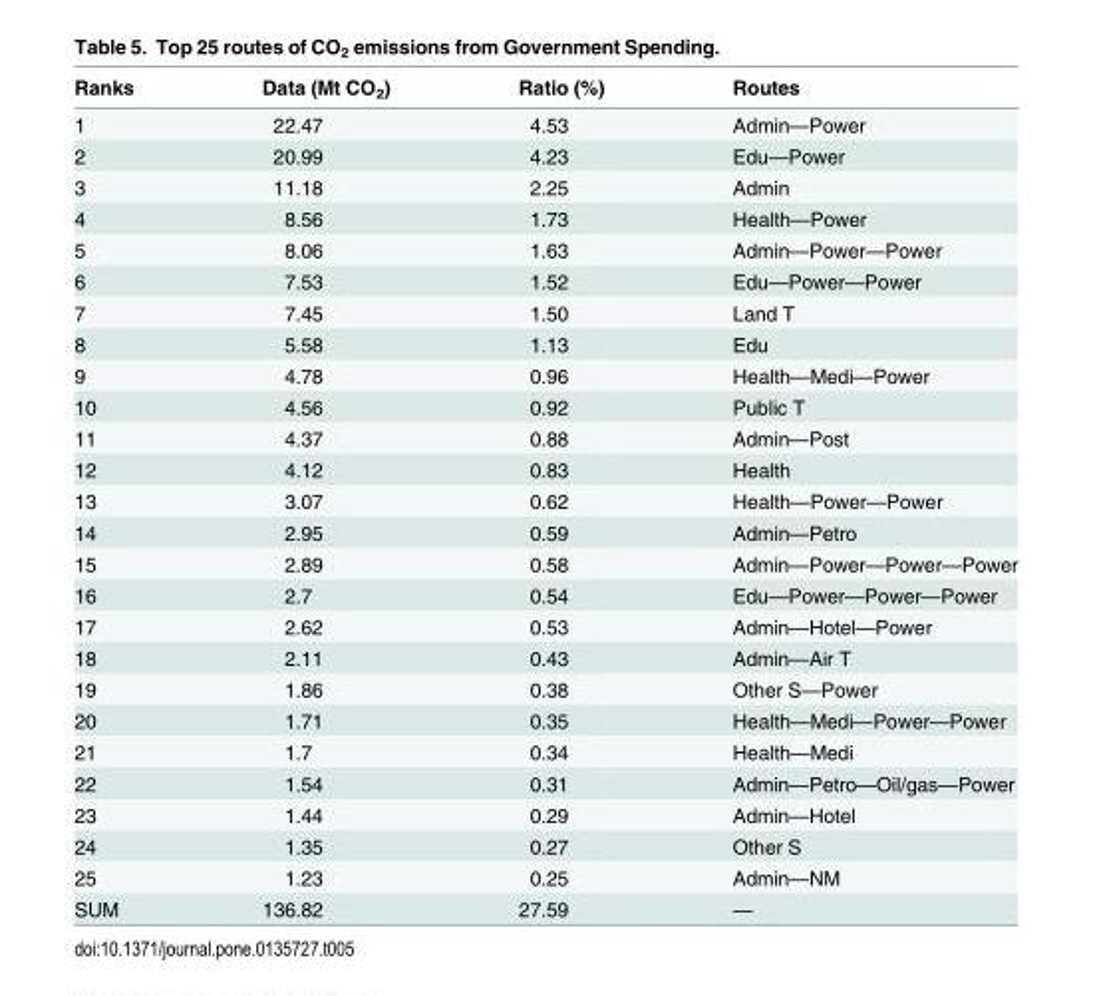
<table><thead><tr><td>Ranks</td><td>Data (Mt CO<sub>2</sub>)</td><td>Ratio (%)</td><td>Routes</td></tr></thead><tbody><tr><td>1</td><td>22.47</td><td>4.53</td><td>Admin—Power</td></tr><tr><td>2</td><td>20.99</td><td>4.23</td><td>Edu—Power</td></tr><tr><td>3</td><td>11.18</td><td>2.25</td><td>Admin</td></tr><tr><td>4</td><td>8.56</td><td>1.73</td><td>Health—Power</td></tr><tr><td>5</td><td>8.06</td><td>1.63</td><td>Admin—Power—Power</td></tr><tr><td>6</td><td>7.53</td><td>1.52</td><td>Edu—Power—Power</td></tr><tr><td>7</td><td>7.45</td><td>1.50</td><td>Land T</td></tr><tr><td>8</td><td>5.58</td><td>1.13</td><td>Edu</td></tr><tr><td>9</td><td>4.78</td><td>0.96</td><td>Health—Medi—Power</td></tr><tr><td>10</td><td>4.56</td><td>0.92</td><td>Public T</td></tr><tr><td>11</td><td>4.37</td><td>0.88</td><td>Admin—Post</td></tr><tr><td>12</td><td>4.12</td><td>0.83</td><td>Health</td></tr><tr><td>13</td><td>3.07</td><td>0.62</td><td>Health—Power—Power</td></tr><tr><td>14</td><td>2.95</td><td>0.59</td><td>Admin—Petro</td></tr><tr><td>15</td><td>2.89</td><td>0.58</td><td>Admin—Power—Power—Power</td></tr><tr><td>16</td><td>2.7</td><td>0.54</td><td>Edu—Power—Power—Power</td></tr><tr><td>17</td><td>2.62</td><td>0.53</td><td>Admin—Hotel—Power</td></tr><tr><td>18</td><td>2.11</td><td>0.43</td><td>Admin—Air T</td></tr><tr><td>19</td><td>1.86</td><td>0.38</td><td>Other S—Power</td></tr><tr><td>20</td><td>1.71</td><td>0.35</td><td>Health—Medi—Power—Power</td></tr><tr><td>21</td><td>1.7</td><td>0.34</td><td>Health—Medi</td></tr><tr><td>22</td><td>1.54</td><td>0.31</td><td>Admin—Petro—Oil/gas—Power</td></tr><tr><td>23</td><td>1.44</td><td>0.29</td><td>Admin—Hotel</td></tr><tr><td>24</td><td>1.35</td><td>0.27</td><td>Other S</td></tr><tr><td>25</td><td>1.23</td><td>0.25</td><td>Admin—NM</td></tr><tr><td>SUM</td><td>136.82</td><td>27.59</td><td>—</td></tr></tbody></table>